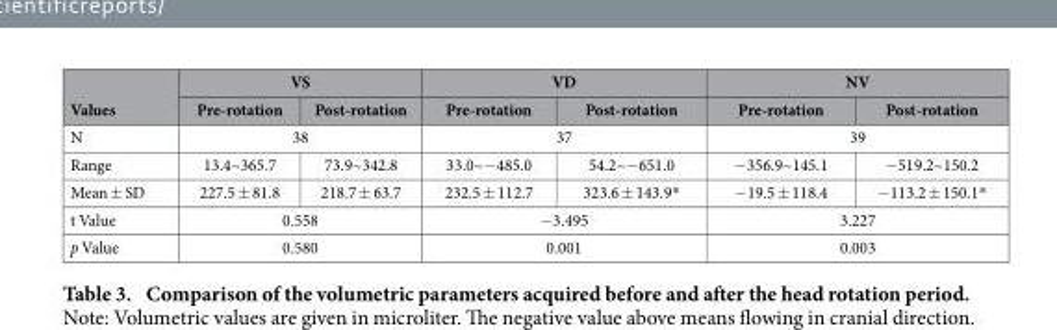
<table><thead><tr><td rowspan="2">Values</td><td colspan="2">VS</td><td colspan="2">VD</td><td colspan="2">NV</td></tr><tr><td>Pre-rotation</td><td>Post-rotation</td><td>Pre-rotation</td><td>Post-rotation</td><td>Pre-rotation</td><td>Post-rotation</td></tr></thead><tbody><tr><td>N</td><td colspan="2">38</td><td colspan="2">37</td><td colspan="2">39</td></tr><tr><td>Range</td><td>13.4~365.7</td><td>73.9~342.8</td><td>33.0~− 485.0</td><td>54.2~− 651.0</td><td>− 356.9~145.1</td><td>− 519.2~150.2</td></tr><tr><td>Mean ± SD</td><td>227.5 ± 81.8</td><td>218.7 ± 63.7</td><td>232.5 ± 112.7</td><td>323.6 ± 143.9*</td><td>− 19.5 ± 118.4</td><td>− 113.2 ± 150.1*</td></tr><tr><td>t Value</td><td colspan="2">0.558</td><td colspan="2">− 3.495</td><td colspan="2">3.227</td></tr><tr><td>p Value</td><td colspan="2">0.580</td><td colspan="2">0.001</td><td colspan="2">0.003</td></tr></tbody></table>